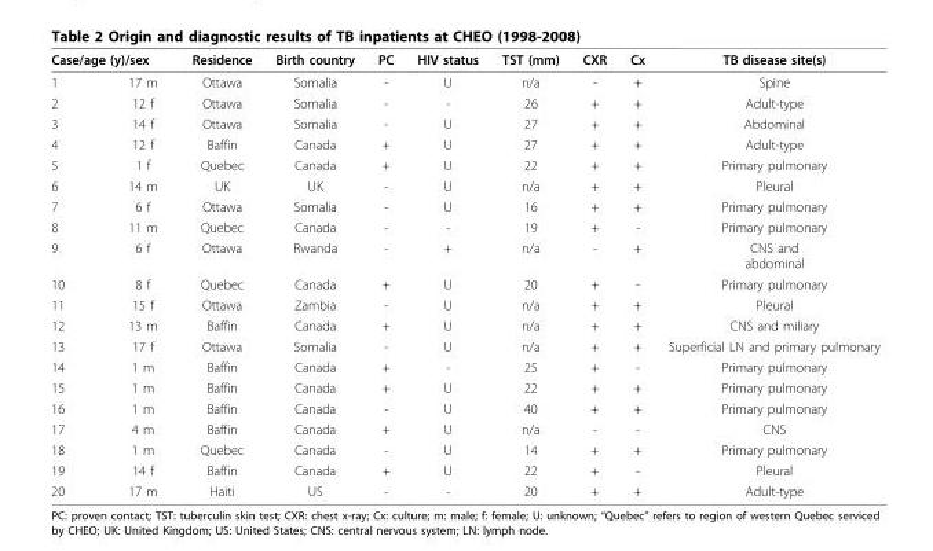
<table><thead><tr><td colspan="2">Case/age (y)/sex</td><td rowspan="2">Residence Ottawa</td><td rowspan="2">Birth country Somalia</td><td rowspan="2">PC -</td><td rowspan="2">HIV status U</td><td rowspan="2">TST (mm) n/a</td><td rowspan="2">CXR -</td><td rowspan="2">Cx +</td><td rowspan="2">TB disease site(s) Spine</td></tr><tr><td>1</td><td>17 m</td></tr></thead><tbody><tr><td>2</td><td>12 f</td><td>Ottawa</td><td>Somalia</td><td>-</td><td>-</td><td>26</td><td>+</td><td>+</td><td>Adult-type</td></tr><tr><td>3</td><td>14 f</td><td>Ottawa</td><td>Somalia</td><td>-</td><td>U</td><td>27</td><td>+</td><td>+</td><td>Abdominal</td></tr><tr><td>4</td><td>12 f</td><td>Baffin</td><td>Canada</td><td>+</td><td>U</td><td>27</td><td>+</td><td>+</td><td>Adult-type</td></tr><tr><td>5</td><td>1 f</td><td>Quebec</td><td>Canada</td><td>+</td><td>U</td><td>22</td><td>+</td><td>+</td><td>Primary pulmonary</td></tr><tr><td>6</td><td>14 m</td><td>UK</td><td>UK</td><td>-</td><td>U</td><td>n/a</td><td>+</td><td>+</td><td>Pleural</td></tr><tr><td>7</td><td>6 f</td><td>Ottawa</td><td>Somalia</td><td>-</td><td>U</td><td>16</td><td>+</td><td>+</td><td>Primary pulmonary</td></tr><tr><td>8</td><td>11 m</td><td>Quebec</td><td>Canada</td><td>-</td><td>-</td><td>19</td><td>+</td><td>-</td><td>Primary pulmonary</td></tr><tr><td>9</td><td>6 f</td><td>Ottawa</td><td>Rwanda</td><td>-</td><td>+</td><td>n/a</td><td>-</td><td>+</td><td>CNS and abdominal</td></tr><tr><td>10</td><td>8 f</td><td>Quebec</td><td>Canada</td><td>+</td><td>U</td><td>20</td><td>+</td><td>-</td><td>Primary pulmonary</td></tr><tr><td>11</td><td>15 f</td><td>Ottawa</td><td>Zambia</td><td>-</td><td>U</td><td>n/a</td><td>+</td><td>+</td><td>Pleural</td></tr><tr><td>12</td><td>13 m</td><td>Baffin</td><td>Canada</td><td>+</td><td>U</td><td>n/a</td><td>+</td><td>+</td><td>CNS and miliary</td></tr><tr><td>13</td><td>17 f</td><td>Ottawa</td><td>Somalia</td><td>-</td><td>U</td><td>n/a</td><td>+</td><td>+</td><td>Superficial LN and primary pulmonary</td></tr><tr><td>14</td><td>1 m</td><td>Baffin</td><td>Canada</td><td>+</td><td>-</td><td>25</td><td>+</td><td>-</td><td>Primary pulmonary</td></tr><tr><td>15</td><td>1 m</td><td>Baffin</td><td>Canada</td><td>+</td><td>U</td><td>22</td><td>+</td><td>+</td><td>Primary pulmonary</td></tr><tr><td>16</td><td>1 m</td><td>Baffin</td><td>Canada</td><td>-</td><td>U</td><td>40</td><td>+</td><td>+</td><td>Primary pulmonary</td></tr><tr><td>17</td><td>4 m</td><td>Baffin</td><td>Canada</td><td>+</td><td>U</td><td>n/a</td><td>-</td><td>-</td><td>CNS</td></tr><tr><td>18</td><td>1 m</td><td>Quebec</td><td>Canada</td><td>-</td><td>U</td><td>14</td><td>+</td><td>+</td><td>Primary pulmonary</td></tr><tr><td>19</td><td>14 f</td><td>Baffin</td><td>Canada</td><td>+</td><td>U</td><td>22</td><td>+</td><td>-</td><td>Pleural</td></tr><tr><td>20</td><td>17 m</td><td>Haiti</td><td>US</td><td>-</td><td>-</td><td>20</td><td>+</td><td>+</td><td>Adult-type</td></tr></tbody></table>